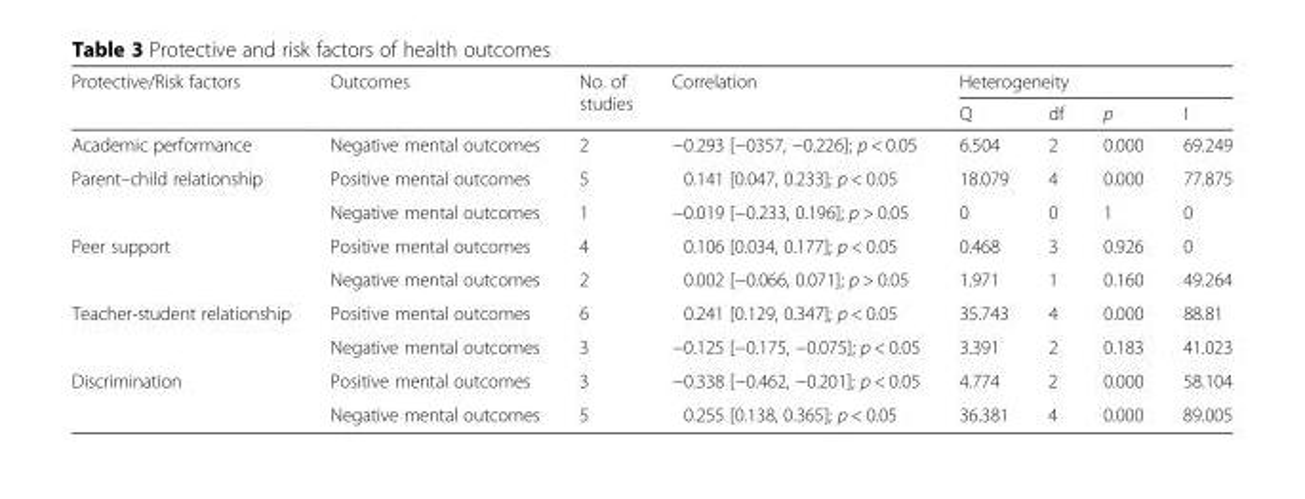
<table><thead><tr><td rowspan="2">Protective/Risk factors</td><td rowspan="2">Outcomes</td><td rowspan="2">No. of studies</td><td rowspan="2">Correlation</td><td colspan="4">Heterogeneity</td></tr><tr><td>Q</td><td>df</td><td>p</td><td>I</td></tr></thead><tbody><tr><td>Academic performance</td><td>Negative mental outcomes</td><td>2</td><td>−0.293 [−0357, −0.226]; p &lt; 0.05</td><td>6.504</td><td>2</td><td>0.000</td><td>69.249</td></tr><tr><td rowspan="2">Parent–child relationship</td><td>Positive mental outcomes</td><td>5</td><td>0.141 [0.047, 0.233]; p &lt; 0.05</td><td>18.079</td><td>4</td><td>0.000</td><td>77.875</td></tr><tr><td>Negative mental outcomes</td><td>1</td><td>−0.019 [−0.233, 0.196]; p &gt; 0.05</td><td>0</td><td>0</td><td>1</td><td>0</td></tr><tr><td rowspan="2">Peer support</td><td>Positive mental outcomes</td><td>4</td><td>0.106 [0.034, 0.177]; p &lt; 0.05</td><td>0.468</td><td>3</td><td>0.926</td><td>0</td></tr><tr><td>Negative mental outcomes</td><td>2</td><td>0.002 [−0.066, 0.071]; p &gt; 0.05</td><td>1.971</td><td>1</td><td>0.160</td><td>49.264</td></tr><tr><td rowspan="2">Teacher-student relationship</td><td>Positive mental outcomes</td><td>6</td><td>0.241 [0.129, 0.347]; p &lt; 0.05</td><td>35.743</td><td>4</td><td>0.000</td><td>88.81</td></tr><tr><td>Negative mental outcomes</td><td>3</td><td>−0.125 [−0.175, −0.075]; p &lt; 0.05</td><td>3.391</td><td>2</td><td>0.183</td><td>41.023</td></tr><tr><td rowspan="2">Discrimination</td><td>Positive mental outcomes</td><td>3</td><td>−0.338 [−0.462, −0.201]; p &lt; 0.05</td><td>4.774</td><td>2</td><td>0.000</td><td>58.104</td></tr><tr><td>Negative mental outcomes</td><td>5</td><td>0.255 [0.138, 0.365]; p &lt; 0.05</td><td>36.381</td><td>4</td><td>0.000</td><td>89.005</td></tr></tbody></table>